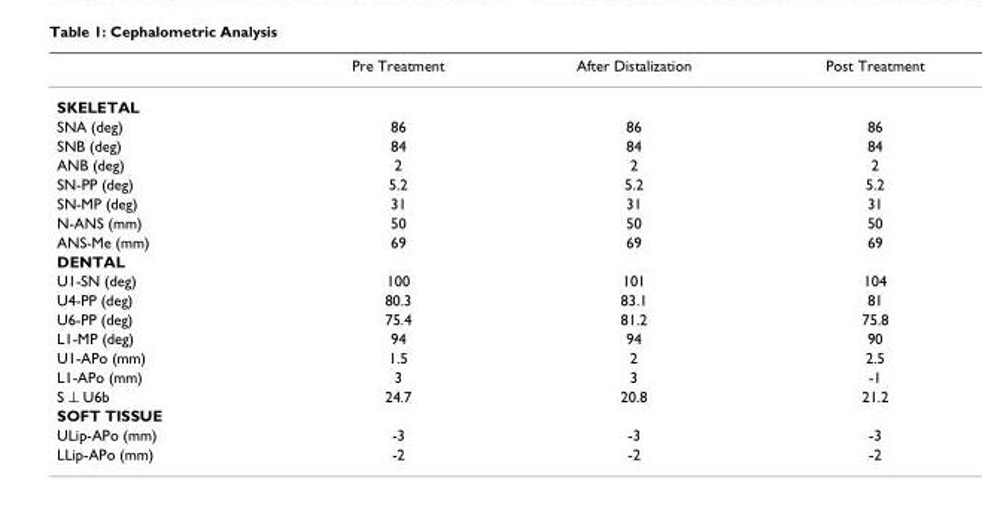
<table><thead><tr><td></td><td>Pre Treatment</td><td>After Distalization</td><td>Post Treatment</td></tr></thead><tbody><tr><td colspan="4">SKELETAL</td></tr><tr><td>SNA (deg)</td><td>86</td><td>86</td><td>86</td></tr><tr><td>SNB (deg)</td><td>84</td><td>84</td><td>84</td></tr><tr><td>ANB (deg)</td><td>2</td><td>2</td><td>2</td></tr><tr><td>SN-PP (deg)</td><td>5.2</td><td>5.2</td><td>5.2</td></tr><tr><td>SN-MP (deg)</td><td>31</td><td>31</td><td>31</td></tr><tr><td>N-ANS (mm)</td><td>50</td><td>50</td><td>50</td></tr><tr><td>ANS-Me (mm)</td><td>69</td><td>69</td><td>69</td></tr><tr><td colspan="4">DENTAL</td></tr><tr><td>U1-SN (deg)</td><td>100</td><td>101</td><td>104</td></tr><tr><td>U4-PP (deg)</td><td>80.3</td><td>83.1</td><td>81</td></tr><tr><td>U6-PP (deg)</td><td>75.4</td><td>81.2</td><td>75.8</td></tr><tr><td>L1-MP (deg)</td><td>94</td><td>94</td><td>90</td></tr><tr><td>U1-APo (mm)</td><td>1.5</td><td>2</td><td>2.5</td></tr><tr><td>L1-APo (mm)</td><td>3</td><td>3</td><td>-1</td></tr><tr><td>S ⊥ U6b</td><td>24.7</td><td>20.8</td><td>21.2</td></tr><tr><td colspan="4">SOFT TISSUE</td></tr><tr><td>ULip-APo (mm)</td><td>-3</td><td>-3</td><td>-3</td></tr><tr><td>LLip-APo (mm)</td><td>-2</td><td>-2</td><td>-2</td></tr></tbody></table>